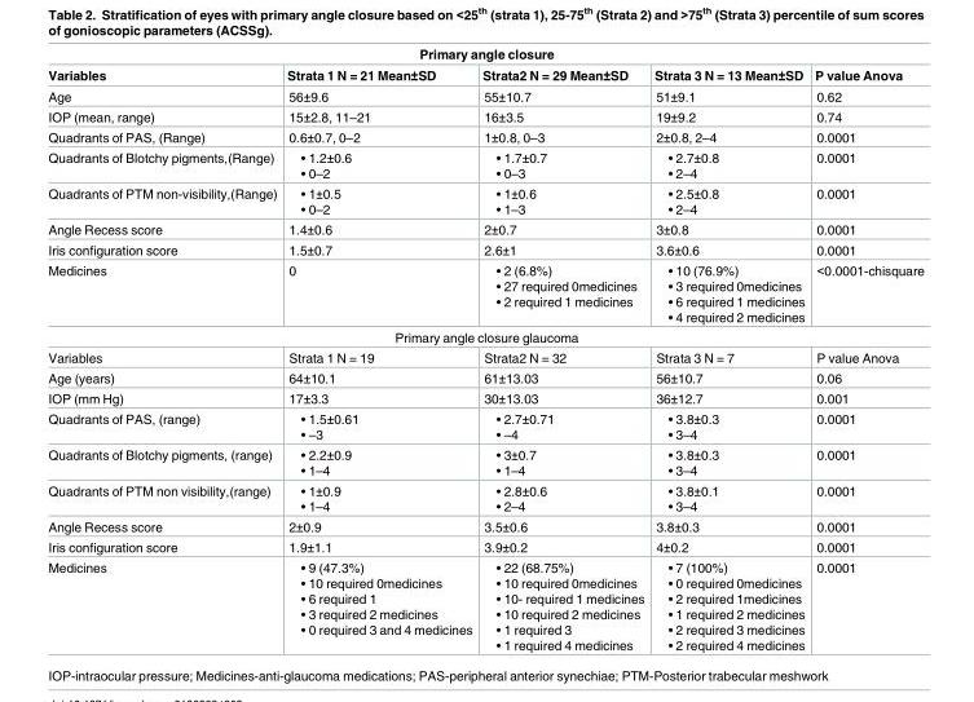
<table><thead><tr><td colspan="5">Primary angle closure</td></tr><tr><td>Variables</td><td>Strata 1 N = 21 Mean±SD</td><td>Strata2 N = 29 Mean±SD</td><td>Strata 3 N = 13 Mean±SD</td><td>P value Anova</td></tr></thead><tbody><tr><td>Age</td><td>56±9.6</td><td>55±10.7</td><td>51±9.1</td><td>0.62</td></tr><tr><td>IOP (mean, range)</td><td>15±2.8, 11–21</td><td>16±3.5</td><td>19±9.2</td><td>0.74</td></tr><tr><td>Quadrants of PAS, (Range)</td><td>0.6±0.7, 0–2</td><td>1±0.8, 0–3</td><td>2±0.8, 2–4</td><td>0.0001</td></tr><tr><td>Quadrants of Blotchy pigments,(Range)</td><td>• 1.2±0.6 • 0–2</td><td>• 1.7±0.7 • 0–3</td><td>• 2.7±0.8 • 2–4</td><td>0.0001</td></tr><tr><td>Quadrants of PTM non-visibility,(Range)</td><td>• 1±0.5 • 0–2</td><td>• 1±0.6 • 1–3</td><td>• 2.5±0.8 • 2–4</td><td>0.0001</td></tr><tr><td>Angle Recess score</td><td>1.4±0.6</td><td>2±0.7</td><td>3±0.8</td><td>0.0001</td></tr><tr><td>Iris configuration score</td><td>1.5±0.7</td><td>2.6±1</td><td>3.6±0.6</td><td>0.0001</td></tr><tr><td>Medicines</td><td>0</td><td>• 2 (6.8%) • 27 required 0medicines • 2 required 1 medicines</td><td>• 10 (76.9%) • 3 required 0medicines • 6 required 1 medicines • 4 required 2 medicines</td><td>&lt;0.0001-chisquare</td></tr><tr><td colspan="5">Primary angle closure glaucoma</td></tr><tr><td>Variables</td><td>Strata 1 N = 19</td><td>Strata2 N = 32</td><td>Strata 3 N = 7</td><td>P value Anova</td></tr><tr><td>Age (years)</td><td>64±10.1</td><td>61±13.03</td><td>56±10.7</td><td>0.06</td></tr><tr><td>IOP (mm Hg)</td><td>17±3.3</td><td>30±13.03</td><td>36±12.7</td><td>0.001</td></tr><tr><td>Quadrants of PAS, (range)</td><td>• 1.5±0.61 • –3</td><td>• 2.7±0.71 • –4</td><td>• 3.8±0.3 • 3–4</td><td>0.0001</td></tr><tr><td>Quadrants of Blotchy pigments, (range)</td><td>• 2.2±0.9 • 1–4</td><td>• 3±0.7 • 1–4</td><td>• 3.8±0.3 • 3–4</td><td>0.0001</td></tr><tr><td>Quadrants of PTM non visibility,(range)</td><td>• 1±0.9 • 1–4</td><td>• 2.8±0.6 • 2–4</td><td>• 3.8±0.1 • 3–4</td><td>0.0001</td></tr><tr><td>Angle Recess score</td><td>2±0.9</td><td>3.5±0.6</td><td>3.8±0.3</td><td>0.0001</td></tr><tr><td>Iris configuration score</td><td>1.9±1.1</td><td>3.9±0.2</td><td>4±0.2</td><td>0.0001</td></tr><tr><td>Medicines</td><td>• 9 (47.3%) • 10 required 0medicines • 6 required 1 • 3 required 2 medicines • 0 required 3 and 4 medicines</td><td>• 22 (68.75%) • 10 required 0medicines • 10- required 1 medicines • 10 required 2 medicines • 1 required 3 • 1 required 4 medicines</td><td>• 7 (100%) • 0 required 0medicines • 2 required 1medicines • 1 required 2 medicines • 2 required 3 medicines • 2 required 4 medicines</td><td>0.0001</td></tr></tbody></table>